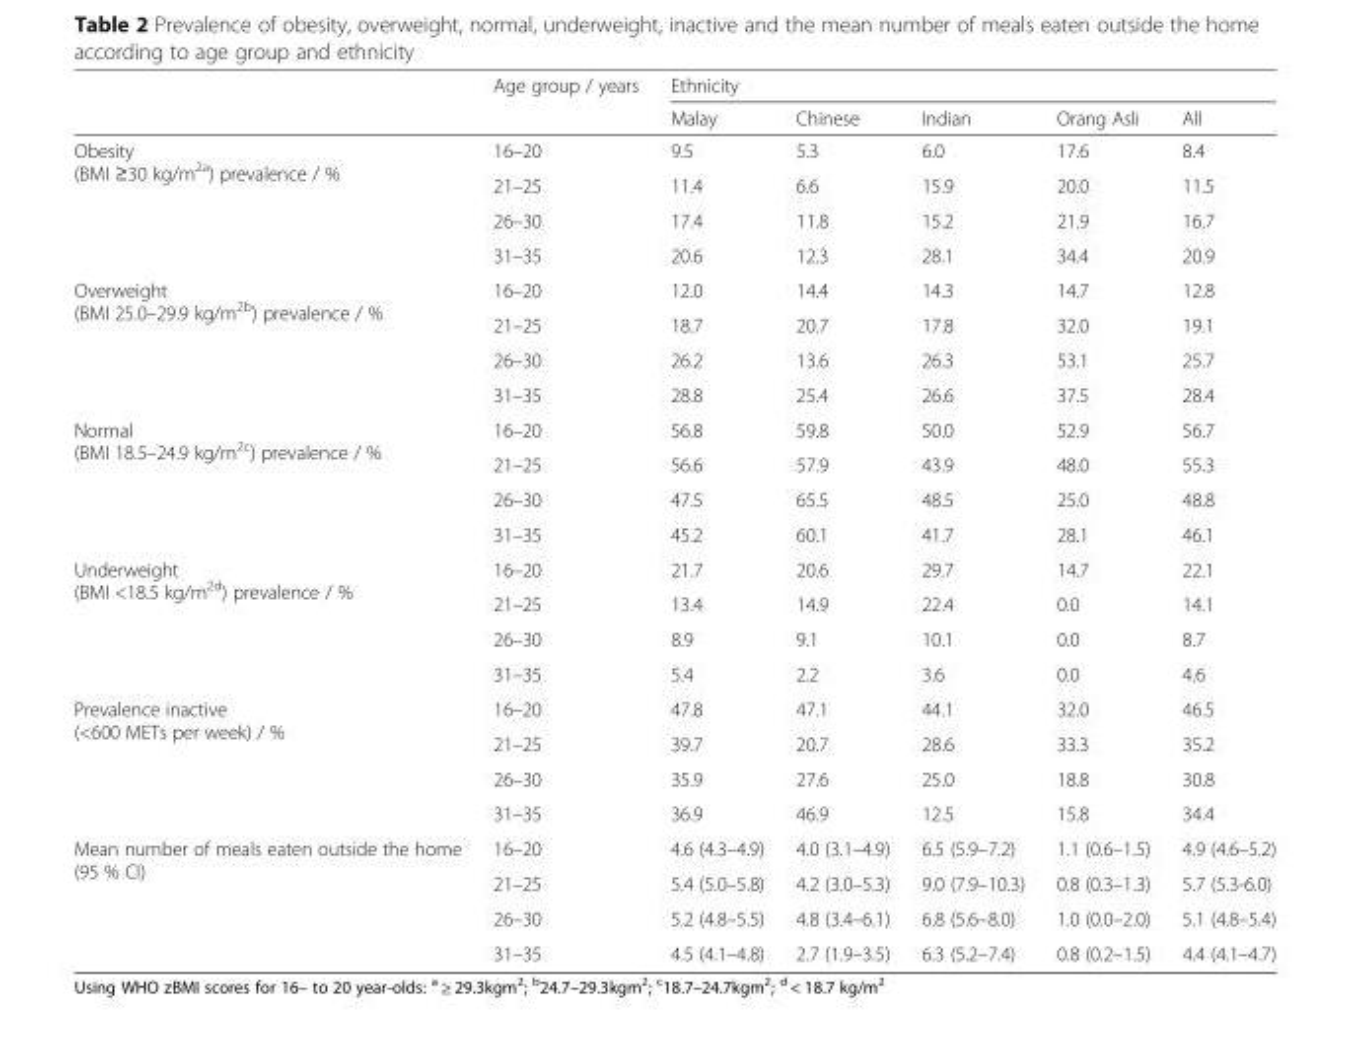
<table><thead><tr><td rowspan="2"></td><td rowspan="2">Age group / years</td><td colspan="5">Ethnicity</td></tr><tr><td>Malay</td><td>Chinese</td><td>Indian</td><td>Orang Asli</td><td>All</td></tr></thead><tbody><tr><td rowspan="4">Obesity (BMI ≥30 kg/m<sup>2a</sup>) prevalence / %</td><td>16–20</td><td>9.5</td><td>5.3</td><td>6.0</td><td>17.6</td><td>8.4</td></tr><tr><td>21–25</td><td>11.4</td><td>6.6</td><td>15.9</td><td>20.0</td><td>11.5</td></tr><tr><td>26–30</td><td>17.4</td><td>11.8</td><td>15.2</td><td>21.9</td><td>16.7</td></tr><tr><td>31–35</td><td>20.6</td><td>12.3</td><td>28.1</td><td>34.4</td><td>20.9</td></tr><tr><td rowspan="4">Overweight (BMI 25.0–29.9 kg/m<sup>2b</sup>) prevalence / %</td><td>16–20</td><td>12.0</td><td>14.4</td><td>14.3</td><td>14.7</td><td>12.8</td></tr><tr><td>21–25</td><td>18.7</td><td>20.7</td><td>17.8</td><td>32.0</td><td>19.1</td></tr><tr><td>26–30</td><td>26.2</td><td>13.6</td><td>26.3</td><td>53.1</td><td>25.7</td></tr><tr><td>31–35</td><td>28.8</td><td>25.4</td><td>26.6</td><td>37.5</td><td>28.4</td></tr><tr><td rowspan="4">Normal (BMI 18.5–24.9 kg/m<sup>2c</sup>) prevalence / %</td><td>16–20</td><td>56.8</td><td>59.8</td><td>50.0</td><td>52.9</td><td>56.7</td></tr><tr><td>21–25</td><td>56.6</td><td>57.9</td><td>43.9</td><td>48.0</td><td>55.3</td></tr><tr><td>26–30</td><td>47.5</td><td>65.5</td><td>48.5</td><td>25.0</td><td>48.8</td></tr><tr><td>31–35</td><td>45.2</td><td>60.1</td><td>41.7</td><td>28.1</td><td>46.1</td></tr><tr><td rowspan="4">Underweight (BMI &lt;18.5 kg/m<sup>2d</sup>) prevalence / %</td><td>16–20</td><td>21.7</td><td>20.6</td><td>29.7</td><td>14.7</td><td>22.1</td></tr><tr><td>21–25</td><td>13.4</td><td>14.9</td><td>22.4</td><td>0.0</td><td>14.1</td></tr><tr><td>26–30</td><td>8.9</td><td>9.1</td><td>10.1</td><td>0.0</td><td>8.7</td></tr><tr><td>31–35</td><td>5.4</td><td>2.2</td><td>3.6</td><td>0.0</td><td>4.6</td></tr><tr><td rowspan="4">Prevalence inactive (&lt;600 METs per week) / %</td><td>16–20</td><td>47.8</td><td>47.1</td><td>44.1</td><td>32.0</td><td>46.5</td></tr><tr><td>21–25</td><td>39.7</td><td>20.7</td><td>28.6</td><td>33.3</td><td>35.2</td></tr><tr><td>26–30</td><td>35.9</td><td>27.6</td><td>25.0</td><td>18.8</td><td>30.8</td></tr><tr><td>31–35</td><td>36.9</td><td>46.9</td><td>12.5</td><td>15.8</td><td>34.4</td></tr><tr><td rowspan="4">Mean number of meals eaten outside the home (95 % CI)</td><td>16–20</td><td>4.6 (4.3–4.9)</td><td>4.0 (3.1–4.9)</td><td>6.5 (5.9–7.2)</td><td>1.1 (0.6–1.5)</td><td>4.9 (4.6–5.2)</td></tr><tr><td>21–25</td><td>5.4 (5.0–5.8)</td><td>4.2 (3.0–5.3)</td><td>9.0 (7.9–10.3)</td><td>0.8 (0.3–1.3)</td><td>5.7 (5.3-6.0)</td></tr><tr><td>26–30</td><td>5.2 (4.8–5.5)</td><td>4.8 (3.4–6.1)</td><td>6.8 (5.6–8.0)</td><td>1.0 (0.0–2.0)</td><td>5.1 (4.8–5.4)</td></tr><tr><td>31–35</td><td>4.5 (4.1–4.8)</td><td>2.7 (1.9–3.5)</td><td>6.3 (5.2–7.4)</td><td>0.8 (0.2–1.5)</td><td>4.4 (4.1–4.7)</td></tr></tbody></table>